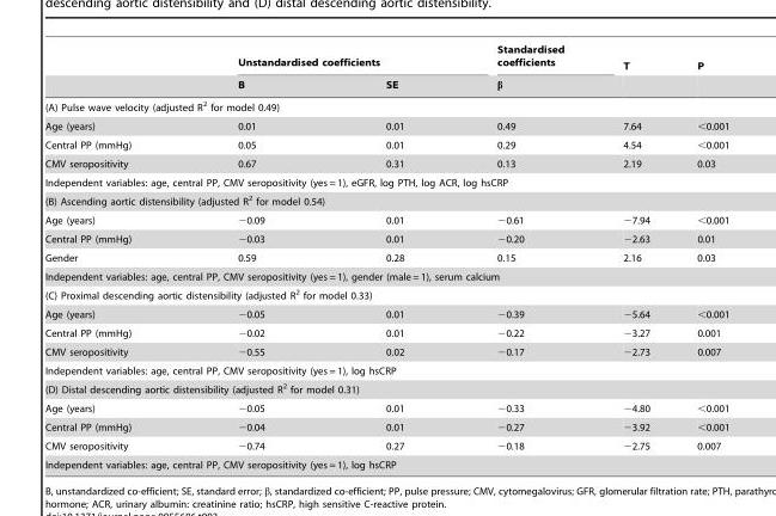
<table><thead><tr><td rowspan="2"></td><td colspan="2">Unstandardised coefficients</td><td rowspan="2">Standardised coefficients β</td><td rowspan="2">T</td><td rowspan="2">P</td></tr><tr><td>B</td><td>SE</td></tr></thead><tbody><tr><td colspan="6">(A) Pulse wave velocity (adjusted R<sup>2</sup> for model 0.49)</td></tr><tr><td>Age (years)</td><td>0.01</td><td>0.01</td><td>0.49</td><td>7.64</td><td>&lt;0.001</td></tr><tr><td>Central PP (mmHg)</td><td>0.05</td><td>0.01</td><td>0.29</td><td>4.54</td><td>&lt;0.001</td></tr><tr><td>CMV seropositivity</td><td>0.67</td><td>0.31</td><td>0.13</td><td>2.19</td><td>0.03</td></tr><tr><td colspan="6">Independent variables: age, central PP, CMV seropositivity (yes = 1), eGFR, log PTH, log ACR, log hsCRP</td></tr><tr><td colspan="6">(B) Ascending aortic distensibility (adjusted R<sup>2</sup> for model 0.54)</td></tr><tr><td>Age (years)</td><td>−0.09</td><td>0.01</td><td>−0.61</td><td>−7.94</td><td>&lt;0.001</td></tr><tr><td>Central PP (mmHg)</td><td>−0.03</td><td>0.01</td><td>−0.20</td><td>−2.63</td><td>0.01</td></tr><tr><td>Gender</td><td>0.59</td><td>0.28</td><td>0.15</td><td>2.16</td><td>0.03</td></tr><tr><td colspan="6">Independent variables: age, central PP, CMV seropositivity (yes = 1), gender (male = 1), serum calcium</td></tr><tr><td colspan="6">(C) Proximal descending aortic distensibility (adjusted R<sup>2</sup> for model 0.33)</td></tr><tr><td>Age (years)</td><td>−0.05</td><td>0.01</td><td>−0.39</td><td>−5.64</td><td>&lt;0.001</td></tr><tr><td>Central PP (mmHg)</td><td>−0.02</td><td>0.01</td><td>−0.22</td><td>−3.27</td><td>0.001</td></tr><tr><td>CMV seropositivity</td><td>−0.55</td><td>0.02</td><td>−0.17</td><td>−2.73</td><td>0.007</td></tr><tr><td colspan="6">Independent variables: age, central PP, CMV seropositivity (yes = 1), log hsCRP</td></tr><tr><td colspan="6">(D) Distal descending aortic distensibility (adjusted R<sup>2</sup> for model 0.31)</td></tr><tr><td>Age (years)</td><td>−0.05</td><td>0.01</td><td>−0.33</td><td>−4.80</td><td>&lt;0.001</td></tr><tr><td>Central PP (mmHg)</td><td>−0.04</td><td>0.01</td><td>−0.27</td><td>−3.92</td><td>&lt;0.001</td></tr><tr><td>CMV seropositivity</td><td>−0.74</td><td>0.27</td><td>−0.18</td><td>−2.75</td><td>0.007</td></tr><tr><td colspan="6">Independent variables: age, central PP, CMV seropositivity (yes = 1), log hsCRP</td></tr></tbody></table>